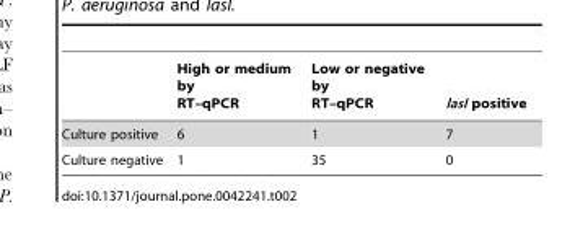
<table><thead><tr><td></td><td>High or medium by RT–qPCR</td><td>Low or negative by RT–qPCR</td><td>lasI positive</td></tr></thead><tbody><tr><td>Culture positive</td><td>6</td><td>1</td><td>7</td></tr><tr><td>Culture negative</td><td>1</td><td>35</td><td>0</td></tr></tbody></table>